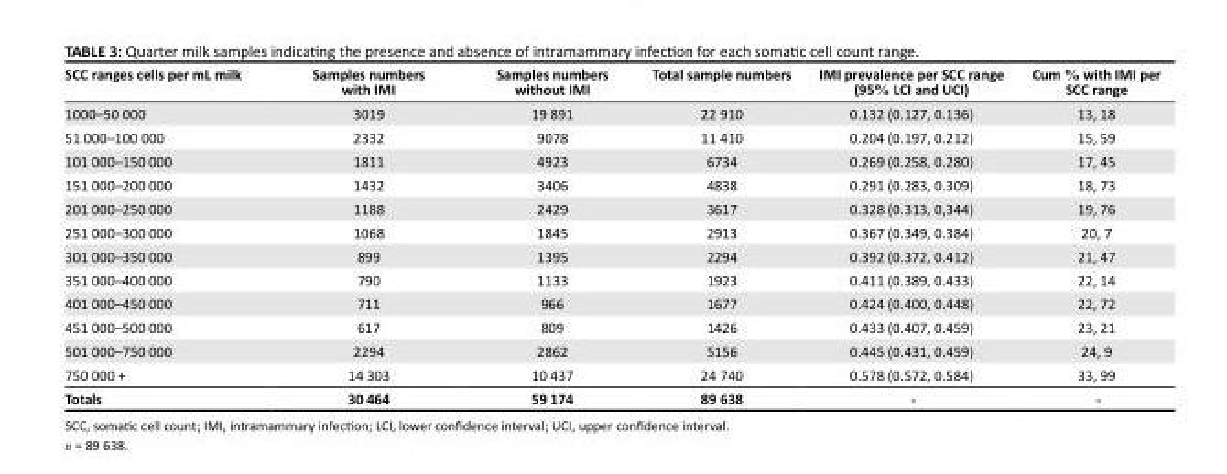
<table><thead><tr><td>SCC ranges cells per mL milk</td><td>Samples numbers with IMI</td><td>Samples numbers without IMI</td><td>Total sample numbers</td><td>IMI prevalence per SCC range (95% LCI and UCI)</td><td>Cum % with IMI per SCC range</td></tr></thead><tbody><tr><td>1000–50 000</td><td>3019</td><td>19 891</td><td>22 910</td><td>0.132 (0.127, 0.136)</td><td>13, 18</td></tr><tr><td>51 000–100 000</td><td>2332</td><td>9078</td><td>11 410</td><td>0.204 (0.197, 0.212)</td><td>15, 59</td></tr><tr><td>101 000–150 000</td><td>1811</td><td>4923</td><td>6734</td><td>0.269 (0.258, 0.280)</td><td>17, 45</td></tr><tr><td>151 000–200 000</td><td>1432</td><td>3406</td><td>4838</td><td>0.291 (0.283, 0.309)</td><td>18, 73</td></tr><tr><td>201 000–250 000</td><td>1188</td><td>2429</td><td>3617</td><td>0.328 (0.313, 0,344)</td><td>19, 76</td></tr><tr><td>251 000–300 000</td><td>1068</td><td>1845</td><td>2913</td><td>0.367 (0.349, 0.384)</td><td>20, 7</td></tr><tr><td>301 000–350 000</td><td>899</td><td>1395</td><td>2294</td><td>0.392 (0.372, 0.412)</td><td>21, 47</td></tr><tr><td>351 000–400 000</td><td>790</td><td>1133</td><td>1923</td><td>0.411 (0.389, 0.433)</td><td>22, 14</td></tr><tr><td>401 000–450 000</td><td>711</td><td>966</td><td>1677</td><td>0.424 (0.400, 0.448)</td><td>22, 72</td></tr><tr><td>451 000–500 000</td><td>617</td><td>809</td><td>1426</td><td>0.433 (0.407, 0.459)</td><td>23, 21</td></tr><tr><td>501 000–750 000</td><td>2294</td><td>2862</td><td>5156</td><td>0.445 (0.431, 0.459)</td><td>24, 9</td></tr><tr><td>750 000 +</td><td>14 303</td><td>10 437</td><td>24 740</td><td>0.578 (0.572, 0.584)</td><td>33, 99</td></tr><tr><td>Totals</td><td>30 464</td><td>59 174</td><td>89 638</td><td>-</td><td>-</td></tr></tbody></table>